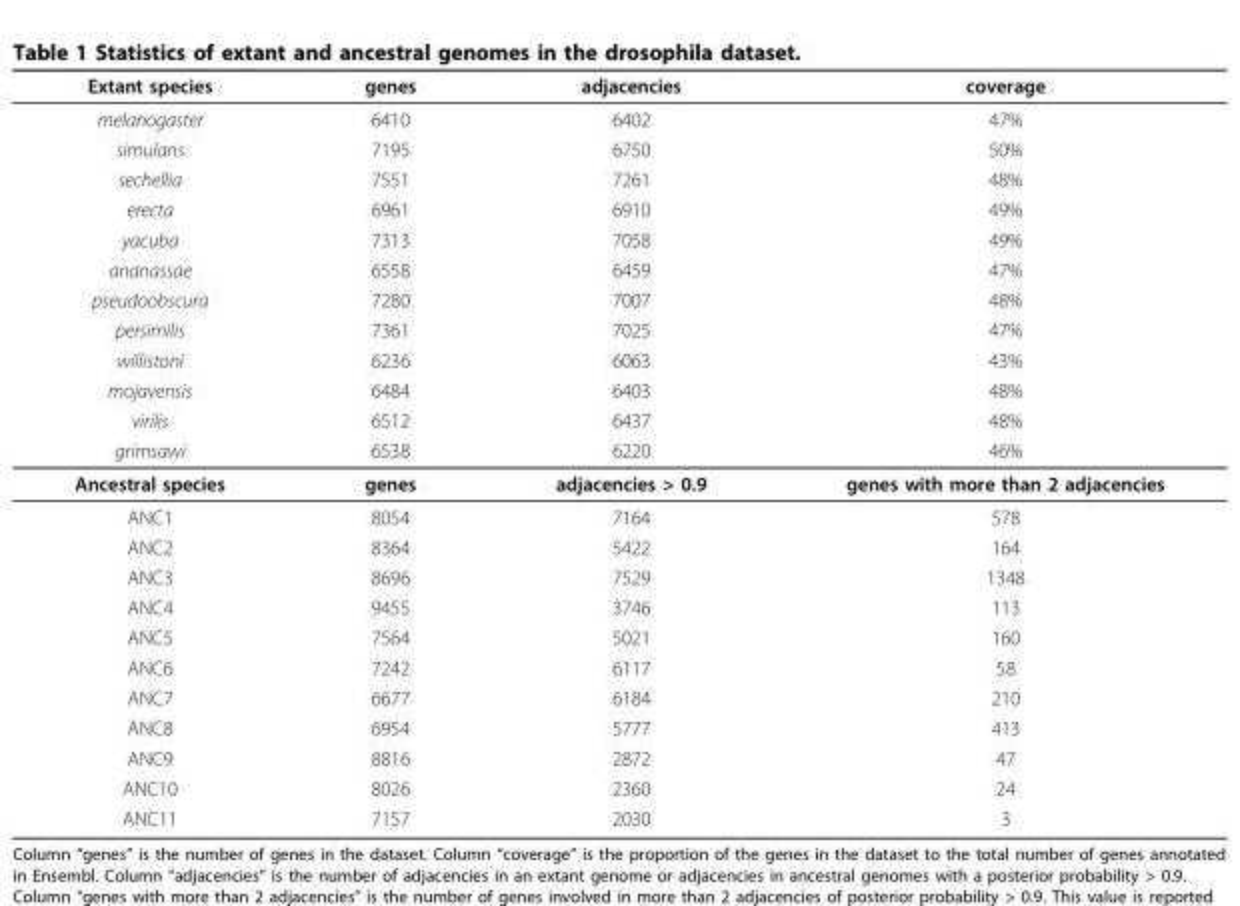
<table><thead><tr><td>Extant species</td><td>genes</td><td>adjacencies</td><td>coverage</td></tr></thead><tbody><tr><td>melanogaster</td><td>6410</td><td>6402</td><td>47%</td></tr><tr><td>simulans</td><td>7195</td><td>6750</td><td>50%</td></tr><tr><td>sechellia</td><td>7551</td><td>7261</td><td>48%</td></tr><tr><td>erecta</td><td>6961</td><td>6910</td><td>49%</td></tr><tr><td>yacuba</td><td>7313</td><td>7058</td><td>49%</td></tr><tr><td>ananassae</td><td>6558</td><td>6459</td><td>47%</td></tr><tr><td>pseudoobscura</td><td>7280</td><td>7007</td><td>48%</td></tr><tr><td>persimilis</td><td>7361</td><td>7025</td><td>47%</td></tr><tr><td>willistoni</td><td>6236</td><td>6063</td><td>43%</td></tr><tr><td>mojavensis</td><td>6484</td><td>6403</td><td>48%</td></tr><tr><td>virilis</td><td>6512</td><td>6437</td><td>48%</td></tr><tr><td>grimsawi</td><td>6538</td><td>6220</td><td>46%</td></tr><tr><td>Ancestral species</td><td>genes</td><td>adjacencies &gt; 0.9</td><td>genes with more than 2 adjacencies</td></tr><tr><td>ANC1</td><td>8054</td><td>7164</td><td>578</td></tr><tr><td>ANC2</td><td>8364</td><td>5422</td><td>164</td></tr><tr><td>ANC3</td><td>8696</td><td>7529</td><td>1348</td></tr><tr><td>ANC4</td><td>9455</td><td>3746</td><td>113</td></tr><tr><td>ANC5</td><td>7564</td><td>5021</td><td>160</td></tr><tr><td>ANC6</td><td>7242</td><td>6117</td><td>58</td></tr><tr><td>ANC7</td><td>6677</td><td>6184</td><td>210</td></tr><tr><td>ANC8</td><td>6954</td><td>5777</td><td>413</td></tr><tr><td>ANC9</td><td>8816</td><td>2872</td><td>47</td></tr><tr><td>ANC10</td><td>8026</td><td>2360</td><td>24</td></tr><tr><td>ANC11</td><td>7157</td><td>2030</td><td>3</td></tr></tbody></table>